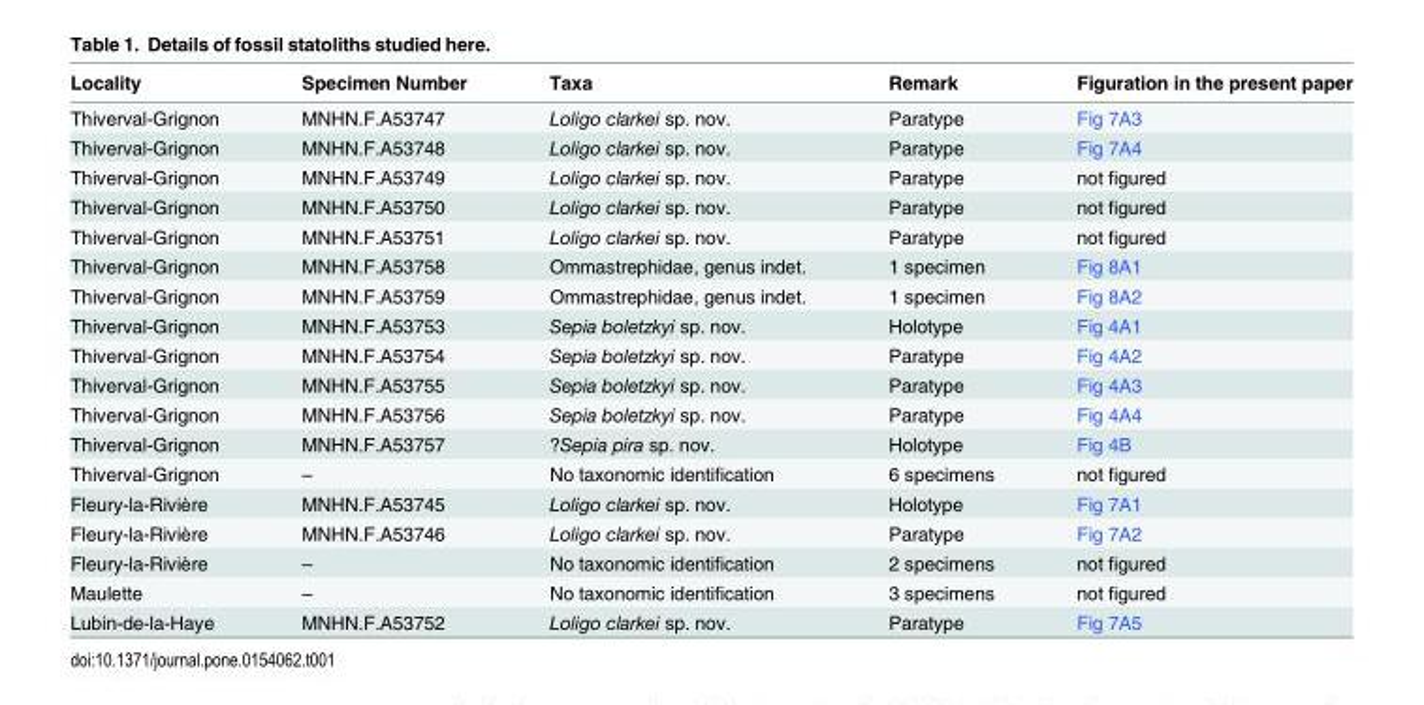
<table><thead><tr><td>Locality</td><td>Specimen Number</td><td>Taxa</td><td>Remark</td><td>Figuration in the present paper</td></tr></thead><tbody><tr><td>Thiverval-Grignon</td><td>MNHN.F.A53747</td><td>Loligo clarkei sp. nov.</td><td>Paratype</td><td>Fig 7A3</td></tr><tr><td>Thiverval-Grignon</td><td>MNHN.F.A53748</td><td>Loligo clarkei sp. nov.</td><td>Paratype</td><td>Fig 7A4</td></tr><tr><td>Thiverval-Grignon</td><td>MNHN.F.A53749</td><td>Loligo clarkei sp. nov.</td><td>Paratype</td><td>not figured</td></tr><tr><td>Thiverval-Grignon</td><td>MNHN.F.A53750</td><td>Loligo clarkei sp. nov.</td><td>Paratype</td><td>not figured</td></tr><tr><td>Thiverval-Grignon</td><td>MNHN.F.A53751</td><td>Loligo clarkei sp. nov.</td><td>Paratype</td><td>not figured</td></tr><tr><td>Thiverval-Grignon</td><td>MNHN.F.A53758</td><td>Ommastrephidae, genus indet.</td><td>1 specimen</td><td>Fig 8A1</td></tr><tr><td>Thiverval-Grignon</td><td>MNHN.F.A53759</td><td>Ommastrephidae, genus indet.</td><td>1 specimen</td><td>Fig 8A2</td></tr><tr><td>Thiverval-Grignon</td><td>MNHN.F.A53753</td><td>Sepia boletzkyi sp. nov.</td><td>Holotype</td><td>Fig 4A1</td></tr><tr><td>Thiverval-Grignon</td><td>MNHN.F.A53754</td><td>Sepia boletzkyi sp. nov.</td><td>Paratype</td><td>Fig 4A2</td></tr><tr><td>Thiverval-Grignon</td><td>MNHN.F.A53755</td><td>Sepia boletzkyi sp. nov.</td><td>Paratype</td><td>Fig 4A3</td></tr><tr><td>Thiverval-Grignon</td><td>MNHN.F.A53756</td><td>Sepia boletzkyi sp. nov.</td><td>Paratype</td><td>Fig 4A4</td></tr><tr><td>Thiverval-Grignon</td><td>MNHN.F.A53757</td><td>?Sepia pira sp. nov.</td><td>Holotype</td><td>Fig 4B</td></tr><tr><td>Thiverval-Grignon</td><td>–</td><td>No taxonomic identification</td><td>6 specimens</td><td>not figured</td></tr><tr><td>Fleury-la-Rivière</td><td>MNHN.F.A53745</td><td>Loligo clarkei sp. nov.</td><td>Holotype</td><td>Fig 7A1</td></tr><tr><td>Fleury-la-Rivière</td><td>MNHN.F.A53746</td><td>Loligo clarkei sp. nov.</td><td>Paratype</td><td>Fig 7A2</td></tr><tr><td>Fleury-la-Rivière</td><td>–</td><td>No taxonomic identification</td><td>2 specimens</td><td>not figured</td></tr><tr><td>Maulette</td><td>–</td><td>No taxonomic identification</td><td>3 specimens</td><td>not figured</td></tr><tr><td>Lubin-de-la-Haye</td><td>MNHN.F.A53752</td><td>Loligo clarkei sp. nov.</td><td>Paratype</td><td>Fig 7A5</td></tr></tbody></table>